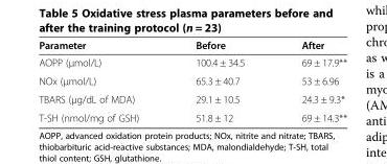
<table><thead><tr><td>Parameter</td><td>Before</td><td>After</td></tr></thead><tbody><tr><td>AOPP (μmol/L)</td><td>100.4 ± 34.5</td><td>69 ± 17.9**</td></tr><tr><td>NOx (μmol/L)</td><td>65.3 ± 40.7</td><td>53 ± 6.96</td></tr><tr><td>TBARS (μg/dL of MDA)</td><td>29.1 ± 10.5</td><td>24.3 ± 9.3*</td></tr><tr><td>T-SH (nmol/mg of GSH)</td><td>51.8 ± 12</td><td>69 ± 14.3**</td></tr></tbody></table>